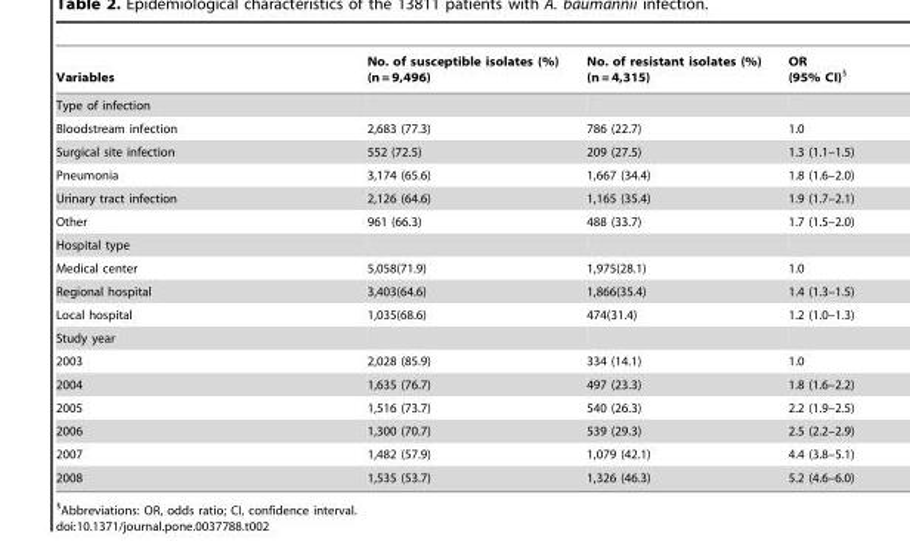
<table><thead><tr><td>Variables</td><td>No. of susceptible isolates (%) (n = 9,496)</td><td>No. of resistant isolates (%) (n = 4,315)</td><td>OR (95% CI)§</td></tr></thead><tbody><tr><td colspan="4">Type of infection</td></tr><tr><td>Bloodstream infection</td><td>2,683 (77.3)</td><td>786 (22.7)</td><td>1.0</td></tr><tr><td>Surgical site infection</td><td>552 (72.5)</td><td>209 (27.5)</td><td>1.3 (1.1–1.5)</td></tr><tr><td>Pneumonia</td><td>3,174 (65.6)</td><td>1,667 (34.4)</td><td>1.8 (1.6–2.0)</td></tr><tr><td>Urinary tract infection</td><td>2,126 (64.6)</td><td>1,165 (35.4)</td><td>1.9 (1.7–2.1)</td></tr><tr><td>Other</td><td>961 (66.3)</td><td>488 (33.7)</td><td>1.7 (1.5–2.0)</td></tr><tr><td colspan="4">Hospital type</td></tr><tr><td>Medical center</td><td>5,058(71.9)</td><td>1,975(28.1)</td><td>1.0</td></tr><tr><td>Regional hospital</td><td>3,403(64.6)</td><td>1,866(35.4)</td><td>1.4 (1.3–1.5)</td></tr><tr><td>Local hospital</td><td>1,035(68.6)</td><td>474(31.4)</td><td>1.2 (1.0–1.3)</td></tr><tr><td colspan="4">Study year</td></tr><tr><td>2003</td><td>2,028 (85.9)</td><td>334 (14.1)</td><td>1.0</td></tr><tr><td>2004</td><td>1,635 (76.7)</td><td>497 (23.3)</td><td>1.8 (1.6–2.2)</td></tr><tr><td>2005</td><td>1,516 (73.7)</td><td>540 (26.3)</td><td>2.2 (1.9–2.5)</td></tr><tr><td>2006</td><td>1,300 (70.7)</td><td>539 (29.3)</td><td>2.5 (2.2–2.9)</td></tr><tr><td>2007</td><td>1,482 (57.9)</td><td>1,079 (42.1)</td><td>4.4 (3.8–5.1)</td></tr><tr><td>2008</td><td>1,535 (53.7)</td><td>1,326 (46.3)</td><td>5.2 (4.6–6.0)</td></tr></tbody></table>